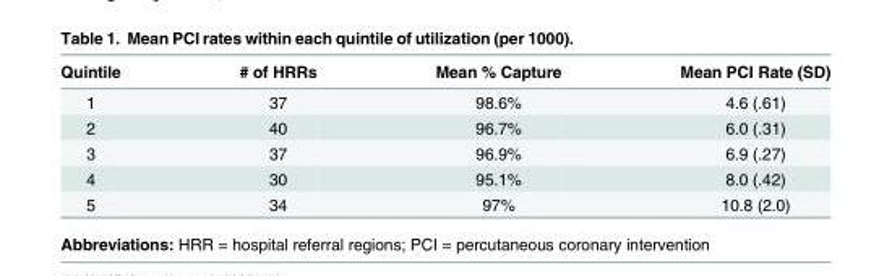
<table><thead><tr><td>Quintile</td><td># of HRRs</td><td>Mean % Capture</td><td>Mean PCI Rate (SD)</td></tr></thead><tbody><tr><td>1</td><td>37</td><td>98.6%</td><td>4.6 (.61)</td></tr><tr><td>2</td><td>40</td><td>96.7%</td><td>6.0 (.31)</td></tr><tr><td>3</td><td>37</td><td>96.9%</td><td>6.9 (.27)</td></tr><tr><td>4</td><td>30</td><td>95.1%</td><td>8.0 (.42)</td></tr><tr><td>5</td><td>34</td><td>97%</td><td>10.8 (2.0)</td></tr></tbody></table>